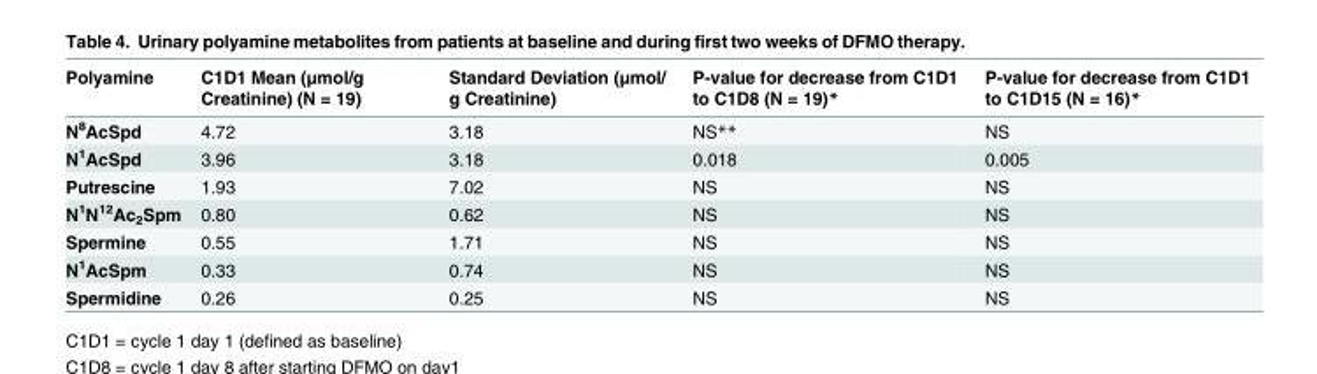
<table><thead><tr><td>Polyamine</td><td>C1D1 Mean (μmol/g Creatinine) (N = 19)</td><td>Standard Deviation (μmol/ g Creatinine)</td><td>P-value for decrease from C1D1 to C1D8 (N = 19)*</td><td>P-value for decrease from C1D1 to C1D15 (N = 16)*</td></tr></thead><tbody><tr><td>N<sup>8</sup>AcSpd</td><td>4.72</td><td>3.18</td><td>NS**</td><td>NS</td></tr><tr><td>N<sup>1</sup>AcSpd</td><td>3.96</td><td>3.18</td><td>0.018</td><td>0.005</td></tr><tr><td>Putrescine</td><td>1.93</td><td>7.02</td><td>NS</td><td>NS</td></tr><tr><td>N<sup>1</sup>N<sup>12</sup>Ac<sub>2</sub>Spm</td><td>0.80</td><td>0.62</td><td>NS</td><td>NS</td></tr><tr><td>Spermine</td><td>0.55</td><td>1.71</td><td>NS</td><td>NS</td></tr><tr><td>N<sup>1</sup>AcSpm</td><td>0.33</td><td>0.74</td><td>NS</td><td>NS</td></tr><tr><td>Spermidine</td><td>0.26</td><td>0.25</td><td>NS</td><td>NS</td></tr></tbody></table>